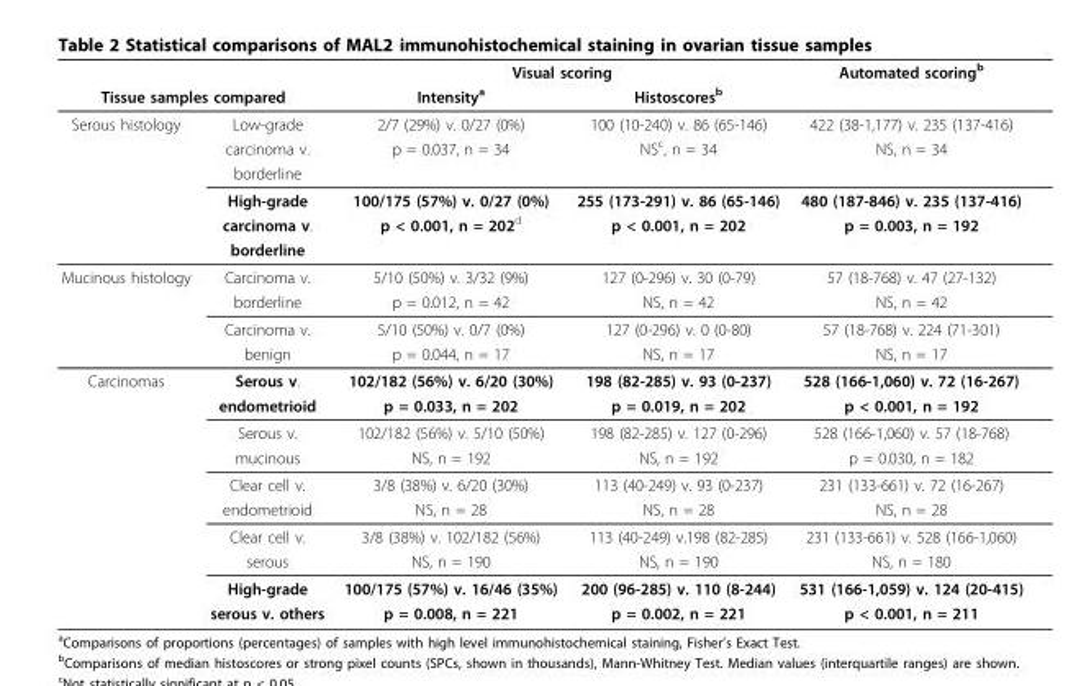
<table><thead><tr><td></td><td></td><td colspan="2">Visual scoring</td><td rowspan="2">Automated scoring<sup>b</sup></td></tr><tr><td colspan="2">Tissue samples compared</td><td>Intensity<sup>a</sup></td><td>Histoscores<sup>b</sup></td></tr></thead><tbody><tr><td rowspan="6">Serous histology</td><td>Low-grade</td><td>2/7 (29%) v. 0/27 (0%)</td><td>100 (10-240) v. 86 (65-146)</td><td>422 (38-1,177) v. 235 (137-416)</td></tr><tr><td>carcinoma v.</td><td>p = 0.037, n = 34</td><td>NS<sup>c</sup>, n = 34</td><td>NS, n = 34</td></tr><tr><td>borderline</td><td></td><td></td><td></td></tr><tr><td>High-grade</td><td>100/175 (57%) v. 0/27 (0%)</td><td>255 (173-291) v. 86 (65-146)</td><td>480 (187-846) v. 235 (137-416)</td></tr><tr><td>carcinoma v.</td><td>p &lt; 0.001, n = 202<sup>d</sup></td><td>p &lt; 0.001, n = 202</td><td>p = 0.003, n = 192</td></tr><tr><td>borderline</td><td></td><td></td><td></td></tr><tr><td rowspan="4">Mucinous histology</td><td>Carcinoma v.</td><td>5/10 (50%) v. 3/32 (9%)</td><td>127 (0-296) v. 30 (0-79)</td><td>57 (18-768) v. 47 (27-132)</td></tr><tr><td>borderline</td><td>p = 0.012, n = 42</td><td>NS, n = 42</td><td>NS, n = 42</td></tr><tr><td>Carcinoma v.</td><td>5/10 (50%) v. 0/7 (0%)</td><td>127 (0-296) v. 0 (0-80)</td><td>57 (18-768) v. 224 (71-301)</td></tr><tr><td>benign</td><td>p = 0.044, n = 17</td><td>NS, n = 17</td><td>NS, n = 17</td></tr><tr><td rowspan="10">Carcinomas</td><td>Serous v.</td><td>102/182 (56%) v. 6/20 (30%)</td><td>198 (82-285) v. 93 (0-237)</td><td>528 (166-1,060) v. 72 (16-267)</td></tr><tr><td>endometrioid</td><td>p = 0.033, n = 202</td><td>p = 0.019, n = 202</td><td>p &lt; 0.001, n = 192</td></tr><tr><td>Serous v.</td><td>102/182 (56%) v. 5/10 (50%)</td><td>198 (82-285) v. 127 (0-296)</td><td>528 (166-1,060) v. 57 (18-768)</td></tr><tr><td>mucinous</td><td>NS, n = 192</td><td>NS, n = 192</td><td>p = 0.030, n = 182</td></tr><tr><td>Clear cell v.</td><td>3/8 (38%) v. 6/20 (30%)</td><td>113 (40-249) v. 93 (0-237)</td><td>231 (133-661) v. 72 (16-267)</td></tr><tr><td>endometrioid</td><td>NS, n = 28</td><td>NS, n = 28</td><td>NS, n = 28</td></tr><tr><td>Clear cell v.</td><td>3/8 (38%) v. 102/182 (56%)</td><td>113 (40-249) v.198 (82-285)</td><td>231 (133-661) v. 528 (166-1,060)</td></tr><tr><td>serous</td><td>NS, n = 190</td><td>NS, n = 190</td><td>NS, n = 180</td></tr><tr><td>High-grade</td><td>100/175 (57%) v. 16/46 (35%)</td><td>200 (96-285) v. 110 (8-244)</td><td>531 (166-1,059) v. 124 (20-415)</td></tr><tr><td>serous v. others</td><td>p = 0.008, n = 221</td><td>p = 0.002, n = 221</td><td>p &lt; 0.001, n = 211</td></tr></tbody></table>